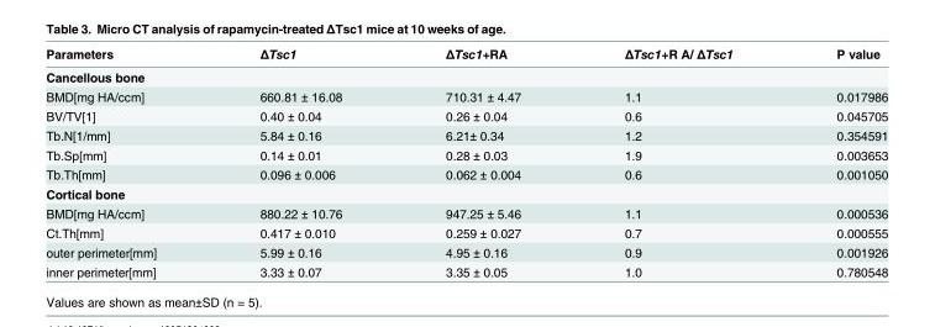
<table><thead><tr><td>Parameters</td><td>ΔTsc1</td><td>ΔTsc1+RA</td><td>ΔTsc1+R A/ ΔTsc1</td><td>P value</td></tr></thead><tbody><tr><td colspan="5">Cancellous bone</td></tr><tr><td>BMD[mg HA/ccm]</td><td>660.81 ± 16.08</td><td>710.31 ± 4.47</td><td>1.1</td><td>0.017986</td></tr><tr><td>BV/TV[1]</td><td>0.40 ± 0.04</td><td>0.26 ± 0.04</td><td>0.6</td><td>0.045705</td></tr><tr><td>Tb.N[1/mm]</td><td>5.84 ± 0.16</td><td>6.21± 0.34</td><td>1.2</td><td>0.354591</td></tr><tr><td>Tb.Sp[mm]</td><td>0.14 ± 0.01</td><td>0.28 ± 0.03</td><td>1.9</td><td>0.003653</td></tr><tr><td>Tb.Th[mm]</td><td>0.096 ± 0.006</td><td>0.062 ± 0.004</td><td>0.6</td><td>0.001050</td></tr><tr><td colspan="5">Cortical bone</td></tr><tr><td>BMD[mg HA/ccm]</td><td>880.22 ± 10.76</td><td>947.25 ± 5.46</td><td>1.1</td><td>0.000536</td></tr><tr><td>Ct.Th[mm]</td><td>0.417 ± 0.010</td><td>0.259 ± 0.027</td><td>0.7</td><td>0.000555</td></tr><tr><td>outer perimeter[mm]</td><td>5.99 ± 0.16</td><td>4.95 ± 0.16</td><td>0.9</td><td>0.001926</td></tr><tr><td>inner perimeter[mm]</td><td>3.33 ± 0.07</td><td>3.35 ± 0.05</td><td>1.0</td><td>0.780548</td></tr></tbody></table>